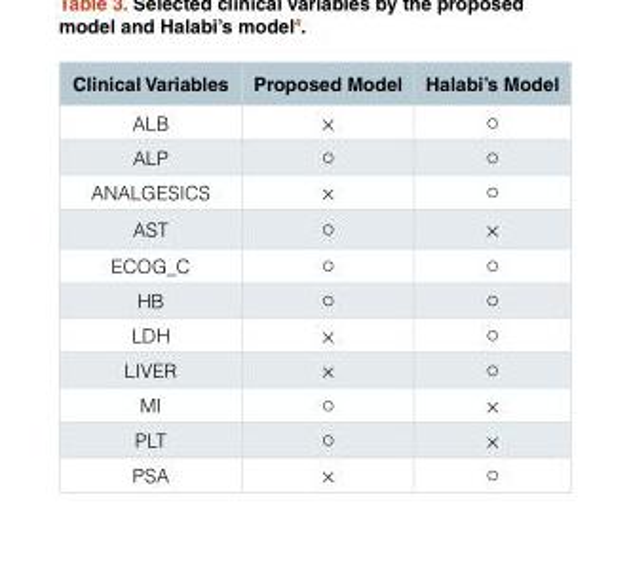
<table><thead><tr><td>Clinical Variables</td><td>Proposed Model</td><td>Halabi’s Model</td></tr></thead><tbody><tr><td>ALB</td><td>×</td><td>○</td></tr><tr><td>ALP</td><td>○</td><td>○</td></tr><tr><td>ANALGESICS</td><td>×</td><td>○</td></tr><tr><td>AST</td><td>○</td><td>×</td></tr><tr><td>ECOG_C</td><td>○</td><td>○</td></tr><tr><td>HB</td><td>○</td><td>○</td></tr><tr><td>LDH</td><td>×</td><td>○</td></tr><tr><td>LIVER</td><td>×</td><td>○</td></tr><tr><td>MI</td><td>○</td><td>×</td></tr><tr><td>PLT</td><td>○</td><td>×</td></tr><tr><td>PSA</td><td>×</td><td>○</td></tr></tbody></table>